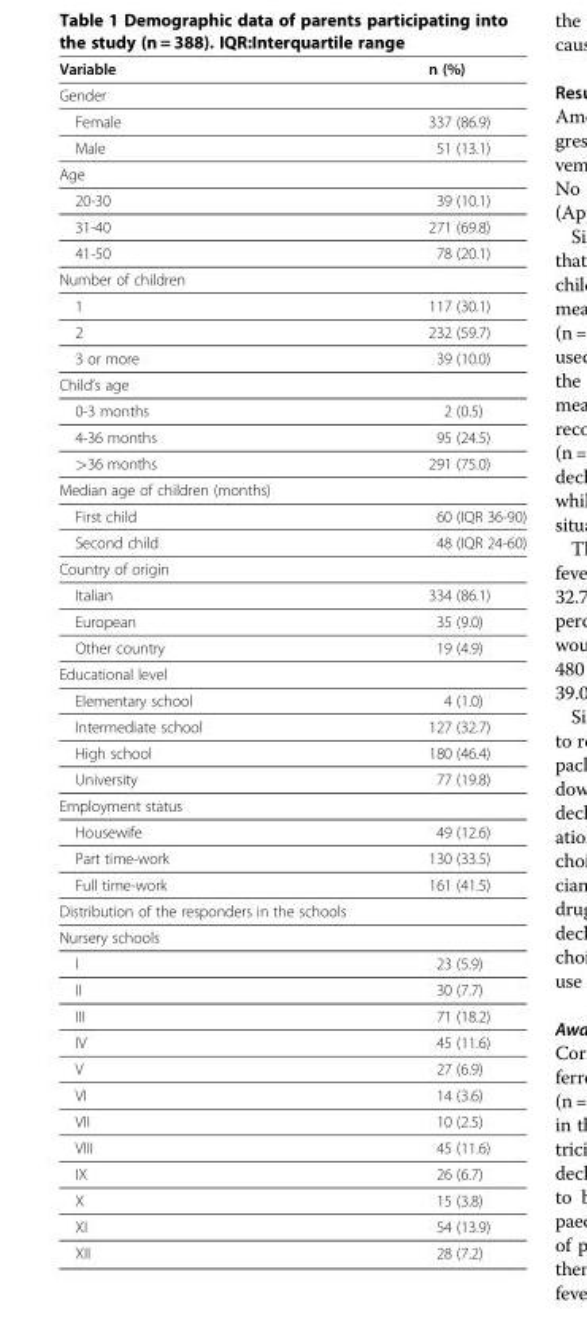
<table><thead><tr><td>Variable</td><td>n (%)</td></tr></thead><tbody><tr><td colspan="2">Gender</td></tr><tr><td>Female</td><td>337 (86.9)</td></tr><tr><td>Male</td><td>51 (13.1)</td></tr><tr><td colspan="2">Age</td></tr><tr><td>20-30</td><td>39 (10.1)</td></tr><tr><td>31-40</td><td>271 (69.8)</td></tr><tr><td>41-50</td><td>78 (20.1)</td></tr><tr><td colspan="2">Number of children</td></tr><tr><td>1</td><td>117 (30.1)</td></tr><tr><td>2</td><td>232 (59.7)</td></tr><tr><td>3 or more</td><td>39 (10.0)</td></tr><tr><td colspan="2">Child’s age</td></tr><tr><td>0-3 months</td><td>2 (0.5)</td></tr><tr><td>4-36 months</td><td>95 (24.5)</td></tr><tr><td>&gt;36 months</td><td>291 (75.0)</td></tr><tr><td colspan="2">Median age of children (months)</td></tr><tr><td>First child</td><td>60 (IQR 36-90)</td></tr><tr><td>Second child</td><td>48 (IQR 24-60)</td></tr><tr><td colspan="2">Country of origin</td></tr><tr><td>Italian</td><td>334 (86.1)</td></tr><tr><td>European</td><td>35 (9.0)</td></tr><tr><td>Other country</td><td>19 (4.9)</td></tr><tr><td colspan="2">Educational level</td></tr><tr><td>Elementary school</td><td>4 (1.0)</td></tr><tr><td>Intermediate school</td><td>127 (32.7)</td></tr><tr><td>High school</td><td>180 (46.4)</td></tr><tr><td>University</td><td>77 (19.8)</td></tr><tr><td colspan="2">Employment status</td></tr><tr><td>Housewife</td><td>49 (12.6)</td></tr><tr><td>Part time-work</td><td>130 (33.5)</td></tr><tr><td>Full time-work</td><td>161 (41.5)</td></tr><tr><td colspan="2">Distribution of the responders in the schools</td></tr><tr><td colspan="2">Nursery schools</td></tr><tr><td>I</td><td>23 (5.9)</td></tr><tr><td>II</td><td>30 (7.7)</td></tr><tr><td>III</td><td>71 (18.2)</td></tr><tr><td>IV</td><td>45 (11.6)</td></tr><tr><td>V</td><td>27 (6.9)</td></tr><tr><td>VI</td><td>14 (3.6)</td></tr><tr><td>VII</td><td>10 (2.5)</td></tr><tr><td>VIII</td><td>45 (11.6)</td></tr><tr><td>IX</td><td>26 (6.7)</td></tr><tr><td>X</td><td>15 (3.8)</td></tr><tr><td>XI</td><td>54 (13.9)</td></tr><tr><td>XII</td><td>28 (7.2)</td></tr></tbody></table>